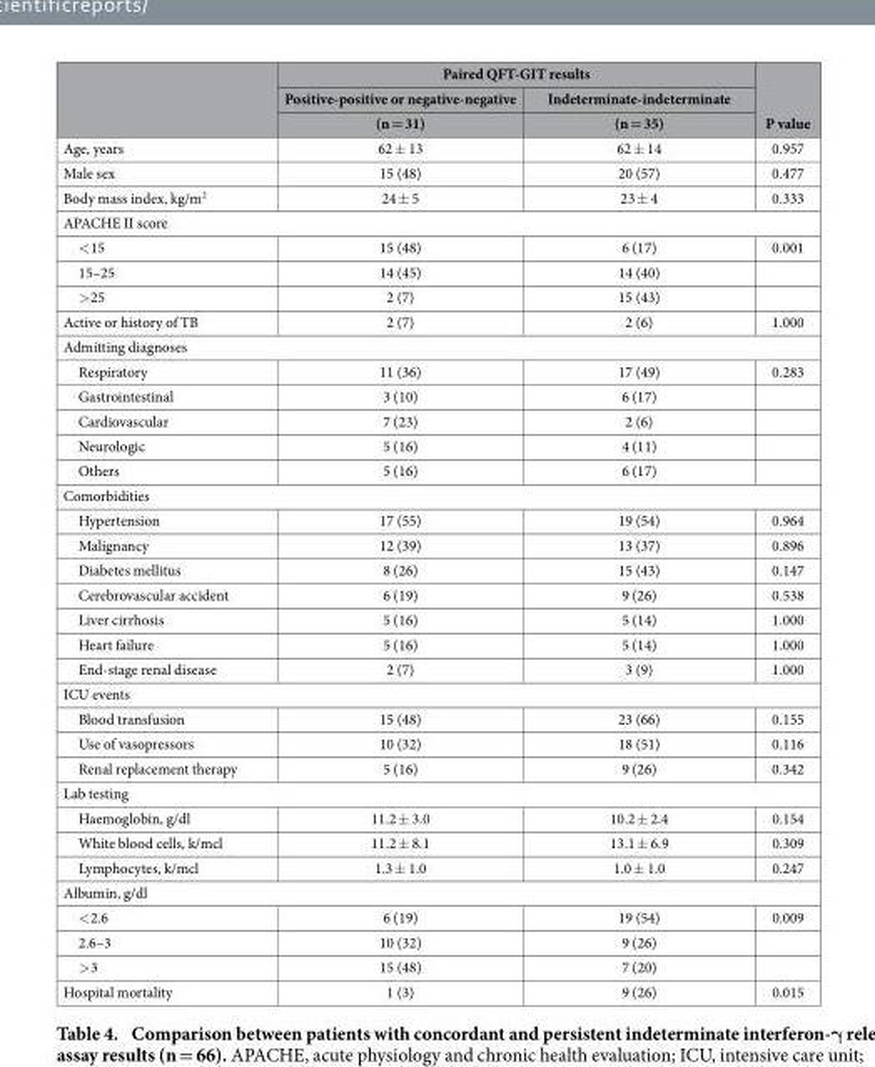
<table><thead><tr><td rowspan="3"></td><td colspan="2">Paired QFT-GIT results</td><td rowspan="3">P value</td></tr><tr><td rowspan="2">Positive-positive or negative-negative (n = 31)</td><td rowspan="2">Indeterminate-indeterminate (n = 35)</td></tr><tr></tr></thead><tbody><tr><td>Age, years</td><td>62 ± 13</td><td>62 ± 14</td><td>0.957</td></tr><tr><td>Male sex</td><td>15 (48)</td><td>20 (57)</td><td>0.477</td></tr><tr><td>Body mass index, kg/m<sup>2</sup></td><td>24 ± 5</td><td>23 ± 4</td><td>0.333</td></tr><tr><td colspan="4">APACHE II score</td></tr><tr><td>&lt; 15</td><td>15 (48)</td><td>6 (17)</td><td>0.001</td></tr><tr><td>15–25</td><td>14 (45)</td><td>14 (40)</td><td></td></tr><tr><td>&gt; 25</td><td>2 (7)</td><td>15 (43)</td><td></td></tr><tr><td>Active or history of TB</td><td>2 (7)</td><td>2 (6)</td><td>1.000</td></tr><tr><td colspan="4">Admitting diagnoses</td></tr><tr><td>Respiratory</td><td>11 (36)</td><td>17 (49)</td><td>0.283</td></tr><tr><td>Gastrointestinal</td><td>3 (10)</td><td>6 (17)</td><td></td></tr><tr><td>Cardiovascular</td><td>7 (23)</td><td>2 (6)</td><td></td></tr><tr><td>Neurologic</td><td>5 (16)</td><td>4 (11)</td><td></td></tr><tr><td>Others</td><td>5 (16)</td><td>6 (17)</td><td></td></tr><tr><td colspan="4">Comorbidities</td></tr><tr><td>Hypertension</td><td>17 (55)</td><td>19 (54)</td><td>0.964</td></tr><tr><td>Malignancy</td><td>12 (39)</td><td>13 (37)</td><td>0.896</td></tr><tr><td>Diabetes mellitus</td><td>8 (26)</td><td>15 (43)</td><td>0.147</td></tr><tr><td>Cerebrovascular accident</td><td>6 (19)</td><td>9 (26)</td><td>0.538</td></tr><tr><td>Liver cirrhosis</td><td>5 (16)</td><td>5 (14)</td><td>1.000</td></tr><tr><td>Heart failure</td><td>5 (16)</td><td>5 (14)</td><td>1.000</td></tr><tr><td>End-stage renal disease</td><td>2 (7)</td><td>3 (9)</td><td>1.000</td></tr><tr><td colspan="4">ICU events</td></tr><tr><td>Blood transfusion</td><td>15 (48)</td><td>23 (66)</td><td>0.155</td></tr><tr><td>Use of vasopressors</td><td>10 (32)</td><td>18 (51)</td><td>0.116</td></tr><tr><td>Renal replacement therapy</td><td>5 (16)</td><td>9 (26)</td><td>0.342</td></tr><tr><td colspan="4">Lab testing</td></tr><tr><td>Haemoglobin, g/dl</td><td>11.2 ± 3.0</td><td>10.2 ± 2.4</td><td>0.154</td></tr><tr><td>White blood cells, k/mcl</td><td>11.2 ± 8.1</td><td>13.1 ± 6.9</td><td>0.309</td></tr><tr><td>Lymphocytes, k/mcl</td><td>1.3 ± 1.0</td><td>1.0 ± 1.0</td><td>0.247</td></tr><tr><td colspan="4">Albumin, g/dl</td></tr><tr><td>&lt; 2.6</td><td>6 (19)</td><td>19 (54)</td><td>0.009</td></tr><tr><td>2.6–3</td><td>10 (32)</td><td>9 (26)</td><td></td></tr><tr><td>&gt; 3</td><td>15 (48)</td><td>7 (20)</td><td></td></tr><tr><td>Hospital mortality</td><td>1 (3)</td><td>9 (26)</td><td>0.015</td></tr></tbody></table>